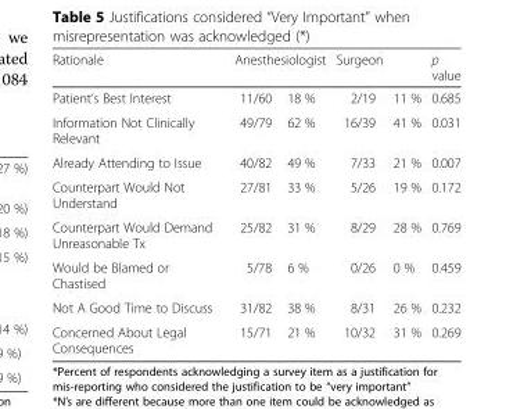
<table><thead><tr><td rowspan="2">Rationale Patient’s Best Interest</td><td colspan="2">Anesthesiologist</td><td rowspan="2">Surgeon 2/19</td><td rowspan="2">11 %</td><td rowspan="2">p value 0.685</td></tr><tr><td>11/60</td><td>18 %</td></tr></thead><tbody><tr><td>Information Not Clinically Relevant</td><td>49/79</td><td>62 %</td><td>16/39</td><td>41 %</td><td>0.031</td></tr><tr><td>Already Attending to Issue</td><td>40/82</td><td>49 %</td><td>7/33</td><td>21 %</td><td>0.007</td></tr><tr><td>Counterpart Would Not Understand</td><td>27/81</td><td>33 %</td><td>5/26</td><td>19 %</td><td>0.172</td></tr><tr><td>Counterpart Would Demand Unreasonable Tx</td><td>25/82</td><td>31 %</td><td>8/29</td><td>28 %</td><td>0.769</td></tr><tr><td>Would be Blamed or Chastised</td><td>5/78</td><td>6 %</td><td>0/26</td><td>0 %</td><td>0.459</td></tr><tr><td>Not A Good Time to Discuss</td><td>31/82</td><td>38 %</td><td>8/31</td><td>26 %</td><td>0.232</td></tr><tr><td>Concerned About Legal Consequences</td><td>15/71</td><td>21 %</td><td>10/32</td><td>31 %</td><td>0.269</td></tr></tbody></table>